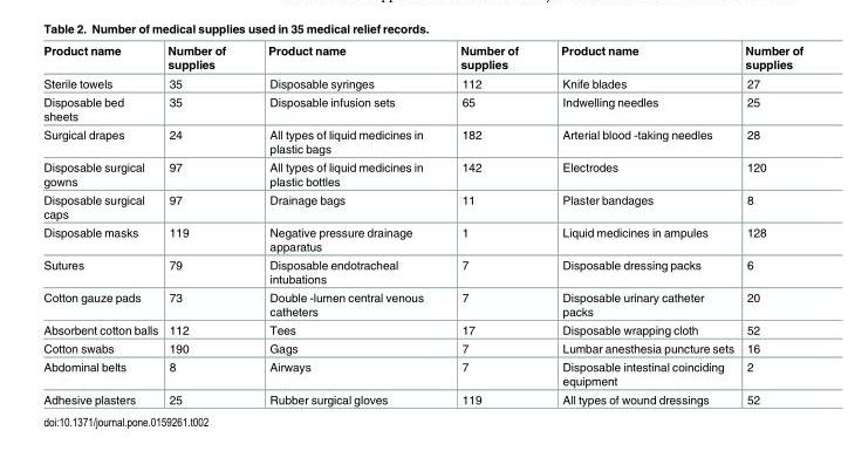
<table><thead><tr><td>Product name</td><td>Number of supplies</td><td>Product name</td><td>Number of supplies</td><td>Product name</td><td>Number of supplies</td></tr></thead><tbody><tr><td>Sterile towels</td><td>35</td><td>Disposable syringes</td><td>112</td><td>Knife blades</td><td>27</td></tr><tr><td>Disposable bed sheets</td><td>35</td><td>Disposable infusion sets</td><td>65</td><td>Indwelling needles</td><td>25</td></tr><tr><td>Surgical drapes</td><td>24</td><td>All types of liquid medicines in plastic bags</td><td>182</td><td>Arterial blood -taking needles</td><td>28</td></tr><tr><td>Disposable surgical gowns</td><td>97</td><td>All types of liquid medicines in plastic bottles</td><td>142</td><td>Electrodes</td><td>120</td></tr><tr><td>Disposable surgical caps</td><td>97</td><td>Drainage bags</td><td>11</td><td>Plaster bandages</td><td>8</td></tr><tr><td>Disposable masks</td><td>119</td><td>Negative pressure drainage apparatus</td><td>1</td><td>Liquid medicines in ampules</td><td>128</td></tr><tr><td>Sutures</td><td>79</td><td>Disposable endotracheal intubations</td><td>7</td><td>Disposable dressing packs</td><td>6</td></tr><tr><td>Cotton gauze pads</td><td>73</td><td>Double -lumen central venous catheters</td><td>7</td><td>Disposable urinary catheter packs</td><td>20</td></tr><tr><td>Absorbent cotton balls</td><td>112</td><td>Tees</td><td>17</td><td>Disposable wrapping cloth</td><td>52</td></tr><tr><td>Cotton swabs</td><td>190</td><td>Gags</td><td>7</td><td>Lumbar anesthesia puncture sets</td><td>16</td></tr><tr><td>Abdominal belts</td><td>8</td><td>Airways</td><td>7</td><td>Disposable intestinal coinciding equipment</td><td>2</td></tr><tr><td>Adhesive plasters</td><td>25</td><td>Rubber surgical gloves</td><td>119</td><td>All types of wound dressings</td><td>52</td></tr></tbody></table>